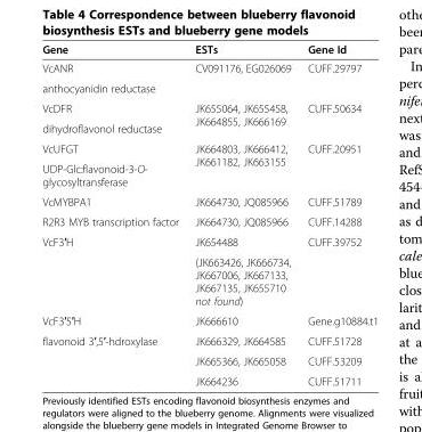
<table><thead><tr><td>Gene</td><td>ESTs</td><td>Gene Id</td></tr></thead><tbody><tr><td>VcANR</td><td rowspan="2">CV091176, EG026069</td><td rowspan="2">CUFF.29797</td></tr><tr><td>anthocyanidin reductase</td></tr><tr><td>VcDFR</td><td rowspan="2">JK655064, JK655458, JK664855, JK666169</td><td rowspan="2">CUFF.50634</td></tr><tr><td>dihydroflavonol reductase</td></tr><tr><td>VcUFGT</td><td rowspan="2">JK664803, JK666412, JK661182, JK663155</td><td rowspan="2">CUFF.20951</td></tr><tr><td>UDP-Glc:flavonoid-3-O- glycosyltransferase</td></tr><tr><td>VcMYBPA1</td><td>JK664730, JQ085966</td><td>CUFF.51789</td></tr><tr><td>R2R3 MYB transcription factor</td><td>JK664730, JQ085966</td><td>CUFF.14288</td></tr><tr><td rowspan="2">VcF3′H</td><td>JK654488</td><td>CUFF.39752</td></tr><tr><td>(JK663426, JK666734, JK667006, JK667133, JK667135, JK655710 not found)</td><td></td></tr><tr><td>VcF3′5′H</td><td>JK666610</td><td>Gene.g10884.t1</td></tr><tr><td rowspan="3">flavonoid 3′,5′-hdroxylase</td><td>JK666329, JK664585</td><td>CUFF.51728</td></tr><tr><td>JK665366, JK665058</td><td>CUFF.53209</td></tr><tr><td>JK664236</td><td>CUFF.51711</td></tr></tbody></table>